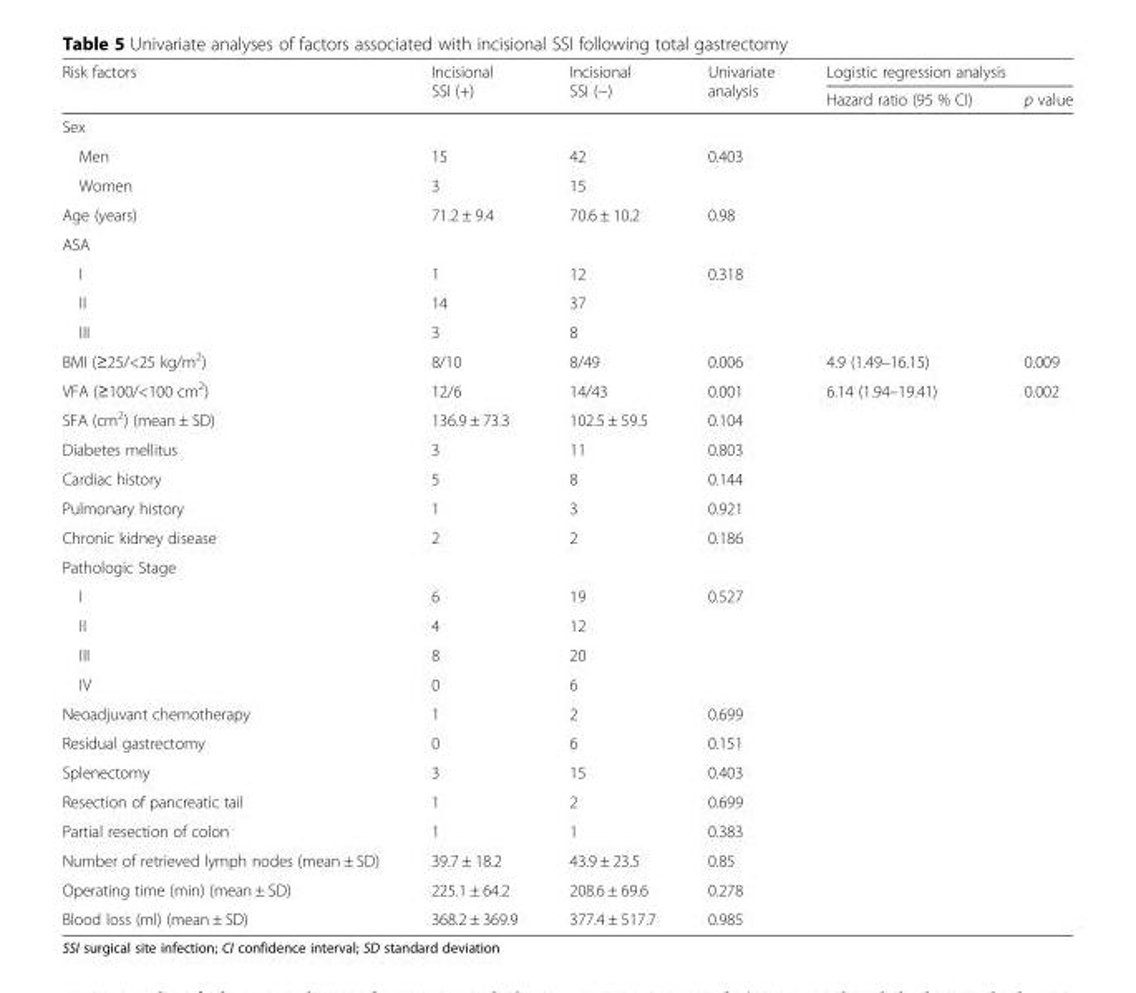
<table><thead><tr><td rowspan="2">Risk factors</td><td rowspan="2">Incisional SSI (+)</td><td rowspan="2">Incisional SSI (−)</td><td rowspan="2">Univariate analysis</td><td colspan="2">Logistic regression analysis</td></tr><tr><td>Hazard ratio (95 % CI)</td><td>p value</td></tr></thead><tbody><tr><td colspan="6">Sex</td></tr><tr><td>Men</td><td>15</td><td>42</td><td>0.403</td><td></td><td></td></tr><tr><td>Women</td><td>3</td><td>15</td><td></td><td></td><td></td></tr><tr><td>Age (years)</td><td>71.2 ± 9.4</td><td>70.6 ± 10.2</td><td>0.98</td><td></td><td></td></tr><tr><td colspan="6">ASA</td></tr><tr><td>I</td><td>1</td><td>12</td><td>0.318</td><td></td><td></td></tr><tr><td>II</td><td>14</td><td>37</td><td></td><td></td><td></td></tr><tr><td>III</td><td>3</td><td>8</td><td></td><td></td><td></td></tr><tr><td>BMI (≥25/&lt;25 kg/m<sup>2</sup>)</td><td>8/10</td><td>8/49</td><td>0.006</td><td>4.9 (1.49–16.15)</td><td>0.009</td></tr><tr><td>VFA (≥100/&lt;100 cm<sup>2</sup>)</td><td>12/6</td><td>14/43</td><td>0.001</td><td>6.14 (1.94–19.41)</td><td>0.002</td></tr><tr><td>SFA (cm<sup>2</sup>) (mean ± SD)</td><td>136.9 ± 73.3</td><td>102.5 ± 59.5</td><td>0.104</td><td></td><td></td></tr><tr><td>Diabetes mellitus</td><td>3</td><td>11</td><td>0.803</td><td></td><td></td></tr><tr><td>Cardiac history</td><td>5</td><td>8</td><td>0.144</td><td></td><td></td></tr><tr><td>Pulmonary history</td><td>1</td><td>3</td><td>0.921</td><td></td><td></td></tr><tr><td>Chronic kidney disease</td><td>2</td><td>2</td><td>0.186</td><td></td><td></td></tr><tr><td colspan="6">Pathologic Stage</td></tr><tr><td>I</td><td>6</td><td>19</td><td>0.527</td><td></td><td></td></tr><tr><td>II</td><td>4</td><td>12</td><td></td><td></td><td></td></tr><tr><td>III</td><td>8</td><td>20</td><td></td><td></td><td></td></tr><tr><td>IV</td><td>0</td><td>6</td><td></td><td></td><td></td></tr><tr><td>Neoadjuvant chemotherapy</td><td>1</td><td>2</td><td>0.699</td><td></td><td></td></tr><tr><td>Residual gastrectomy</td><td>0</td><td>6</td><td>0.151</td><td></td><td></td></tr><tr><td>Splenectomy</td><td>3</td><td>15</td><td>0.403</td><td></td><td></td></tr><tr><td>Resection of pancreatic tail</td><td>1</td><td>2</td><td>0.699</td><td></td><td></td></tr><tr><td>Partial resection of colon</td><td>1</td><td>1</td><td>0.383</td><td></td><td></td></tr><tr><td>Number of retrieved lymph nodes (mean ± SD)</td><td>39.7 ± 18.2</td><td>43.9 ± 23.5</td><td>0.85</td><td></td><td></td></tr><tr><td>Operating time (min) (mean ± SD)</td><td>225.1 ± 64.2</td><td>208.6 ± 69.6</td><td>0.278</td><td></td><td></td></tr><tr><td>Blood loss (ml) (mean ± SD)</td><td>368.2 ± 369.9</td><td>377.4 ± 517.7</td><td>0.985</td><td></td><td></td></tr></tbody></table>